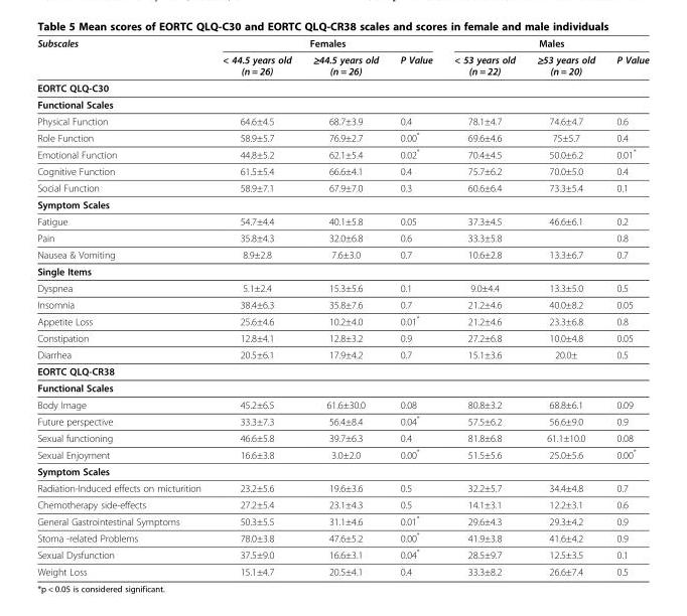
<table><thead><tr><td rowspan="2">Subscales</td><td colspan="3">Females</td><td colspan="3">Males</td></tr><tr><td>&lt; 44.5 years old (n = 26)</td><td>≥44.5 years old (n = 26)</td><td>P Value</td><td>&lt; 53 years old (n = 22)</td><td>≥53 years old (n = 20)</td><td>P Value</td></tr></thead><tbody><tr><td colspan="7">EORTC QLQ-C30</td></tr><tr><td colspan="7">Functional Scales</td></tr><tr><td>Physical Function</td><td>64.6±4.5</td><td>68.7±3.9</td><td>0.4</td><td>78.1±4.7</td><td>74.6±4.7</td><td>0.6</td></tr><tr><td>Role Function</td><td>58.9±5.7</td><td>76.9±2.7</td><td>0.00*</td><td>69.6±4.6</td><td>75±5.7</td><td>0.4</td></tr><tr><td>Emotional Function</td><td>44.8±5.2</td><td>62.1±5.4</td><td>0.02*</td><td>70.4±4.5</td><td>50.0±6.2</td><td>0.01*</td></tr><tr><td>Cognitive Function</td><td>61.5±5.4</td><td>66.6±4.1</td><td>0.4</td><td>75.7±6.2</td><td>70.0±5.0</td><td>0.4</td></tr><tr><td>Social Function</td><td>58.9±7.1</td><td>67.9±7.0</td><td>0.3</td><td>60.6±6.4</td><td>73.3±5.4</td><td>0.1</td></tr><tr><td colspan="7">Symptom Scales</td></tr><tr><td>Fatigue</td><td>54.7±4.4</td><td>40.1±5.8</td><td>0.05</td><td>37.3±4.5</td><td>46.6±6.1</td><td>0.2</td></tr><tr><td>Pain</td><td>35.8±4.3</td><td>32.0±6.8</td><td>0.6</td><td>33.3±5.8</td><td></td><td>0.8</td></tr><tr><td>Nausea &amp; Vomiting</td><td>8.9±2.8</td><td>7.6±3.0</td><td>0.7</td><td>10.6±2.8</td><td>13.3±6.7</td><td>0.7</td></tr><tr><td colspan="7">Single Items</td></tr><tr><td>Dyspnea</td><td>5.1±2.4</td><td>15.3±5.6</td><td>0.1</td><td>9.0±4.4</td><td>13.3±5.0</td><td>0.5</td></tr><tr><td>Insomnia</td><td>38.4±6.3</td><td>35.8±7.6</td><td>0.7</td><td>21.2±4.6</td><td>40.0±8.2</td><td>0.05</td></tr><tr><td>Appetite Loss</td><td>25.6±4.6</td><td>10.2±4.0</td><td>0.01*</td><td>21.2±4.6</td><td>23.3±6.8</td><td>0.8</td></tr><tr><td>Constipation</td><td>12.8±4.1</td><td>12.8±3.2</td><td>0.9</td><td>27.2±6.8</td><td>10.0±4.8</td><td>0.05</td></tr><tr><td>Diarrhea</td><td>20.5±6.1</td><td>17.9±4.2</td><td>0.7</td><td>15.1±3.6</td><td>20.0±</td><td>0.5</td></tr><tr><td colspan="7">EORTC QLQ-CR38</td></tr><tr><td colspan="7">Functional Scales</td></tr><tr><td>Body Image</td><td>45.2±6.5</td><td>61.6±30.0</td><td>0.08</td><td>80.8±3.2</td><td>68.8±6.1</td><td>0.09</td></tr><tr><td>Future perspective</td><td>33.3±7.3</td><td>56.4±8.4</td><td>0.04*</td><td>57.5±6.2</td><td>56.6±9.0</td><td>0.9</td></tr><tr><td>Sexual functioning</td><td>46.6±5.8</td><td>39.7±6.3</td><td>0.4</td><td>81.8±6.8</td><td>61.1±10.0</td><td>0.08</td></tr><tr><td>Sexual Enjoyment</td><td>16.6±3.8</td><td>3.0±2.0</td><td>0.00*</td><td>51.5±5.6</td><td>25.0±5.6</td><td>0.00*</td></tr><tr><td colspan="7">Symptom Scales</td></tr><tr><td>Radiation-Induced effects on micturition</td><td>23.2±5.6</td><td>19.6±3.6</td><td>0.5</td><td>32.2±5.7</td><td>34.4±4.8</td><td>0.7</td></tr><tr><td>Chemotherapy side-effects</td><td>27.2±5.4</td><td>23.1±4.3</td><td>0.5</td><td>14.1±3.1</td><td>12.2±3.1</td><td>0.6</td></tr><tr><td>General Gastrointestinal Symptoms</td><td>50.3±5.5</td><td>31.1±4.6</td><td>0.01*</td><td>29.6±4.3</td><td>29.3±4.2</td><td>0.9</td></tr><tr><td>Stoma -related Problems</td><td>78.0±3.8</td><td>47.6±5.2</td><td>0.00*</td><td>41.9±3.8</td><td>41.6±4.2</td><td>0.9</td></tr><tr><td>Sexual Dysfunction</td><td>37.5±9.0</td><td>16.6±3.1</td><td>0.04*</td><td>28.5±9.7</td><td>12.5±3.5</td><td>0.1</td></tr><tr><td>Weight Loss</td><td>15.1±4.7</td><td>20.5±4.1</td><td>0.4</td><td>33.3±8.2</td><td>26.6±7.4</td><td>0.5</td></tr></tbody></table>